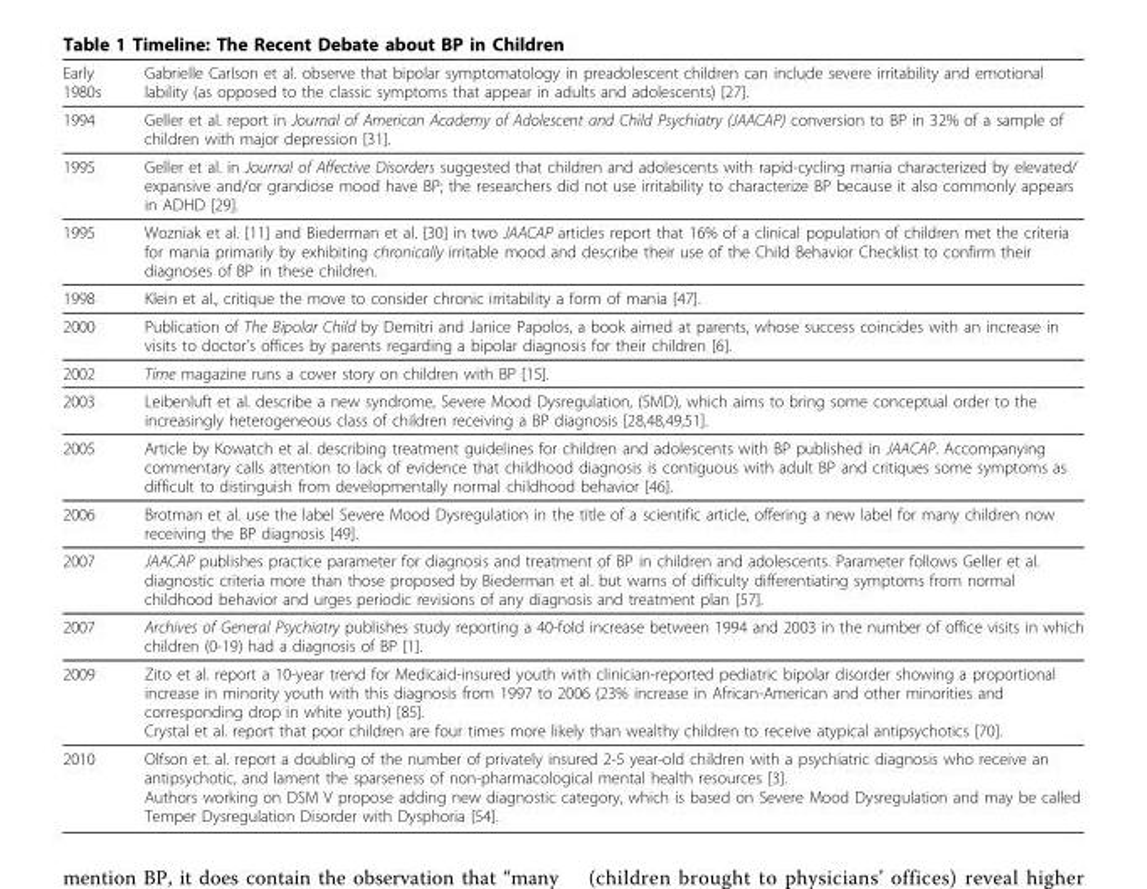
<table><thead><tr><td>Early 1980s</td><td>Gabrielle Carlson et al. observe that bipolar symptomatology in preadolescent children can include severe irritability and emotional lability (as opposed to the classic symptoms that appear in adults and adolescents) [27].</td></tr></thead><tbody><tr><td>1994</td><td>Geller et al. report in Journal of American Academy of Adolescent and Child Psychiatry (JAACAP) conversion to BP in 32% of a sample of children with major depression [31].</td></tr><tr><td>1995</td><td>Geller et al. in Journal of Affective Disorders suggested that children and adolescents with rapid-cycling mania characterized by elevated/ expansive and/or grandiose mood have BP; the researchers did not use irritability to characterize BP because it also commonly appears in ADHD [29].</td></tr><tr><td>1995</td><td>Wozniak et al. [11] and Biederman et al. [30] in two JAACAP articles report that 16% of a clinical population of children met the criteria for mania primarily by exhibiting chronically irritable mood and describe their use of the Child Behavior Checklist to confirm their diagnoses of BP in these children.</td></tr><tr><td>1998</td><td>Klein et al., critique the move to consider chronic irritability a form of mania [47].</td></tr><tr><td>2000</td><td>Publication of The Bipolar Child by Demitri and Janice Papolos, a book aimed at parents, whose success coincides with an increase in visits to doctor’s offices by parents regarding a bipolar diagnosis for their children [6].</td></tr><tr><td>2002</td><td>Time magazine runs a cover story on children with BP [15].</td></tr><tr><td>2003</td><td>Leibenluft et al. describe a new syndrome, Severe Mood Dysregulation, (SMD), which aims to bring some conceptual order to the increasingly heterogeneous class of children receiving a BP diagnosis [28,48,49,51].</td></tr><tr><td>2005</td><td>Article by Kowatch et al. describing treatment guidelines for children and adolescents with BP published in JAACAP. Accompanying commentary calls attention to lack of evidence that childhood diagnosis is contiguous with adult BP and critiques some symptoms as difficult to distinguish from developmentally normal childhood behavior [46].</td></tr><tr><td>2006</td><td>Brotman et al. use the label Severe Mood Dysregulation in the title of a scientific article, offering a new label for many children now receiving the BP diagnosis [49].</td></tr><tr><td>2007</td><td>JAACAP publishes practice parameter for diagnosis and treatment of BP in children and adolescents. Parameter follows Geller et al. diagnostic criteria more than those proposed by Biederman et al. but warns of difficulty differentiating symptoms from normal childhood behavior and urges periodic revisions of any diagnosis and treatment plan [57].</td></tr><tr><td>2007</td><td>Archives of General Psychiatry publishes study reporting a 40-fold increase between 1994 and 2003 in the number of office visits in which children (0-19) had a diagnosis of BP [1].</td></tr><tr><td>2009</td><td>Zito et al. report a 10-year trend for Medicaid-insured youth with clinician-reported pediatric bipolar disorder showing a proportional increase in minority youth with this diagnosis from 1997 to 2006 (23% increase in African-American and other minorities and corresponding drop in white youth) [85]. Crystal et al. report that poor children are four times more likely than wealthy children to receive atypical antipsychotics [70].</td></tr><tr><td>2010</td><td>Olfson et. al. report a doubling of the number of privately insured 2-5 year-old children with a psychiatric diagnosis who receive an antipsychotic, and lament the sparseness of non-pharmacological mental health resources [3]. Authors working on DSM V propose adding new diagnostic category, which is based on Severe Mood Dysregulation and may be called Temper Dysregulation Disorder with Dysphoria [54].</td></tr></tbody></table>